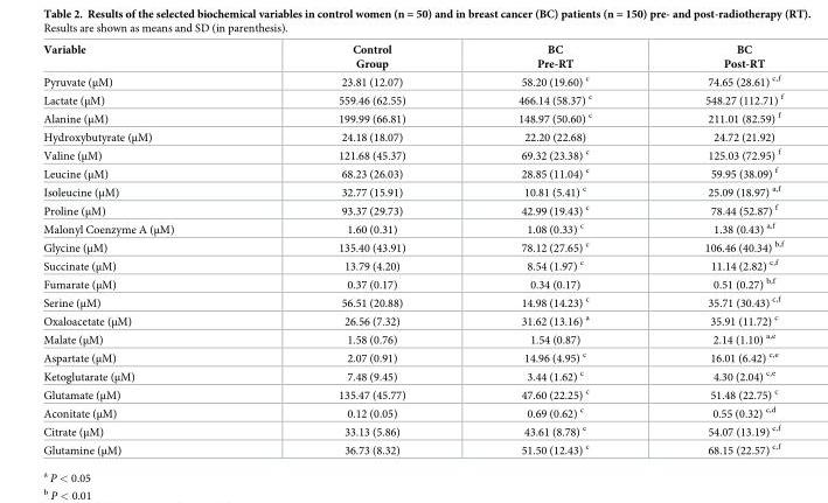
<table><thead><tr><td>Variable</td><td>Control Group</td><td>BC Pre-RT</td><td>BC Post-RT</td></tr></thead><tbody><tr><td>Pyruvate (μM)</td><td>23.81 (12.07)</td><td>58.20 (19.60) <sup>c</sup></td><td>74.65 (28.61) <sup>c,f</sup></td></tr><tr><td>Lactate (μM)</td><td>559.46 (62.55)</td><td>466.14 (58.37) <sup>c</sup></td><td>548.27 (112.71) <sup>f</sup></td></tr><tr><td>Alanine (μM)</td><td>199.99 (66.81)</td><td>148.97 (50.60) <sup>c</sup></td><td>211.01 (82.59) <sup>f</sup></td></tr><tr><td>Hydroxybutyrate (μM)</td><td>24.18 (18.07)</td><td>22.20 (22.68)</td><td>24.72 (21.92)</td></tr><tr><td>Valine (μM)</td><td>121.68 (45.37)</td><td>69.32 (23.38) <sup>c</sup></td><td>125.03 (72.95) <sup>f</sup></td></tr><tr><td>Leucine (μM)</td><td>68.23 (26.03)</td><td>28.85 (11.04) <sup>c</sup></td><td>59.95 (38.09) <sup>f</sup></td></tr><tr><td>Isoleucine (μM)</td><td>32.77 (15.91)</td><td>10.81 (5.41) <sup>c</sup></td><td>25.09 (18.97) <sup>a,f</sup></td></tr><tr><td>Proline (μM)</td><td>93.37 (29.73)</td><td>42.99 (19.43) <sup>c</sup></td><td>78.44 (52.87) <sup>f</sup></td></tr><tr><td>Malonyl Coenzyme A (μM)</td><td>1.60 (0.31)</td><td>1.08 (0.33) <sup>c</sup></td><td>1.38 (0.43) <sup>a,f</sup></td></tr><tr><td>Glycine (μM)</td><td>135.40 (43.91)</td><td>78.12 (27.65) <sup>c</sup></td><td>106.46 (40.34) <sup>b,f</sup></td></tr><tr><td>Succinate (μM)</td><td>13.79 (4.20)</td><td>8.54 (1.97) <sup>c</sup></td><td>11.14 (2.82) <sup>c,f</sup></td></tr><tr><td>Fumarate (μM)</td><td>0.37 (0.17)</td><td>0.34 (0.17)</td><td>0.51 (0.27) <sup>b,f</sup></td></tr><tr><td>Serine (μM)</td><td>56.51 (20.88)</td><td>14.98 (14.23) <sup>c</sup></td><td>35.71 (30.43) <sup>c,f</sup></td></tr><tr><td>Oxaloacetate (μM)</td><td>26.56 (7.32)</td><td>31.62 (13.16) <sup>a</sup></td><td>35.91 (11.72) <sup>c</sup></td></tr><tr><td>Malate (μM)</td><td>1.58 (0.76)</td><td>1.54 (0.87)</td><td>2.14 (1.10) <sup>a,e</sup></td></tr><tr><td>Aspartate (μM)</td><td>2.07 (0.91)</td><td>14.96 (4.95) <sup>c</sup></td><td>16.01 (6.42) <sup>c,e</sup></td></tr><tr><td>Ketoglutarate (μM)</td><td>7.48 (9.45)</td><td>3.44 (1.62) <sup>c</sup></td><td>4.30 (2.04) <sup>c,e</sup></td></tr><tr><td>Glutamate (μM)</td><td>135.47 (45.77)</td><td>47.60 (22.25) <sup>c</sup></td><td>51.48 (22.75) <sup>c</sup></td></tr><tr><td>Aconitate (μM)</td><td>0.12 (0.05)</td><td>0.69 (0.62) <sup>c</sup></td><td>0.55 (0.32) <sup>c,d</sup></td></tr><tr><td>Citrate (μM)</td><td>33.13 (5.86)</td><td>43.61 (8.78) <sup>c</sup></td><td>54.07 (13.19) <sup>c,f</sup></td></tr><tr><td>Glutamine (μM)</td><td>36.73 (8.32)</td><td>51.50 (12.43) <sup>c</sup></td><td>68.15 (22.57) <sup>c,f</sup></td></tr></tbody></table>